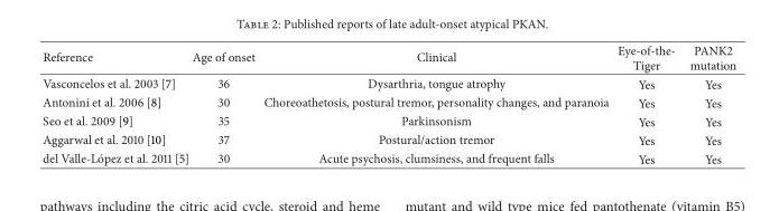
<table><thead><tr><td>Reference</td><td>Age of onset</td><td>Clinical</td><td>Eye-of-the- Tiger</td><td>PANK2 mutation</td></tr></thead><tbody><tr><td>Vasconcelos et al. 2003 [7]</td><td>36</td><td>Dysarthria, tongue atrophy</td><td>Yes</td><td>Yes</td></tr><tr><td>Antonini et al. 2006 [8]</td><td>30</td><td>Choreoathetosis, postural tremor, personality changes, and paranoia</td><td>Yes</td><td>Yes</td></tr><tr><td>Seo et al. 2009 [9]</td><td>35</td><td>Parkinsonism</td><td>Yes</td><td>Yes</td></tr><tr><td>Aggarwal et al. 2010 [10]</td><td>37</td><td>Postural/action tremor</td><td>Yes</td><td>Yes</td></tr><tr><td>del Valle-L´opez et al. 2011 [5]</td><td>30</td><td>Acute psychosis, clumsiness, and frequent falls</td><td>Yes</td><td>Yes</td></tr></tbody></table>